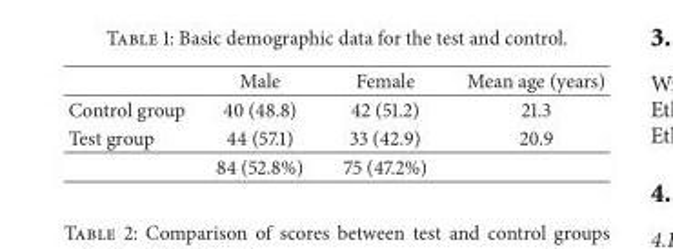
<table><thead><tr><td></td><td>Male</td><td>Female</td><td>Mean age (years)</td></tr></thead><tbody><tr><td>Control group</td><td>40 (48.8)</td><td>42 (51.2)</td><td>21.3</td></tr><tr><td rowspan="2">Test group</td><td>44 (57.1)</td><td>33 (42.9)</td><td>20.9</td></tr><tr><td>84 (52.8%)</td><td>75 (47.2%)</td><td></td></tr></tbody></table>